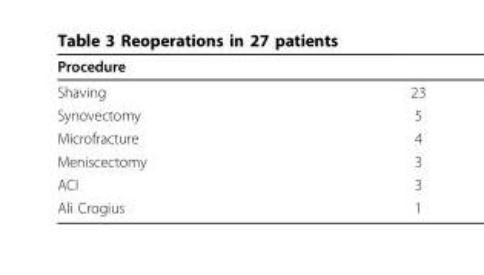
<table><thead><tr><td>Procedure</td><td></td></tr></thead><tbody><tr><td>Shaving</td><td>23</td></tr><tr><td>Synovectomy</td><td>5</td></tr><tr><td>Microfracture</td><td>4</td></tr><tr><td>Meniscectomy</td><td>3</td></tr><tr><td>ACI</td><td>3</td></tr><tr><td>Ali Crogius</td><td>1</td></tr></tbody></table>